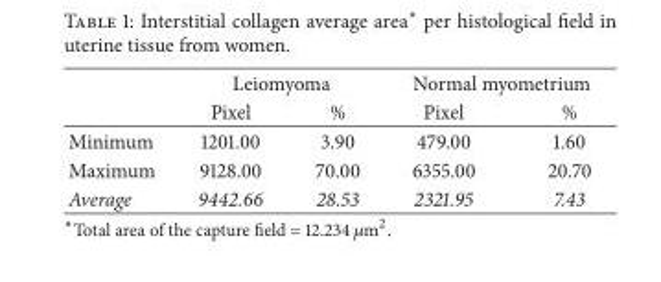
<table><thead><tr><td rowspan="2"></td><td colspan="2">Leiomyoma</td><td colspan="2">Normal myometrium</td></tr><tr><td>Pixel</td><td>%</td><td>Pixel</td><td>%</td></tr></thead><tbody><tr><td>Minimum</td><td>1201.00</td><td>3.90</td><td>479.00</td><td>1.60</td></tr><tr><td>Maximum</td><td>9128.00</td><td>70.00</td><td>6355.00</td><td>20.70</td></tr><tr><td>Average</td><td>9442.66</td><td>28.53</td><td>2321.95</td><td>7.43</td></tr></tbody></table>